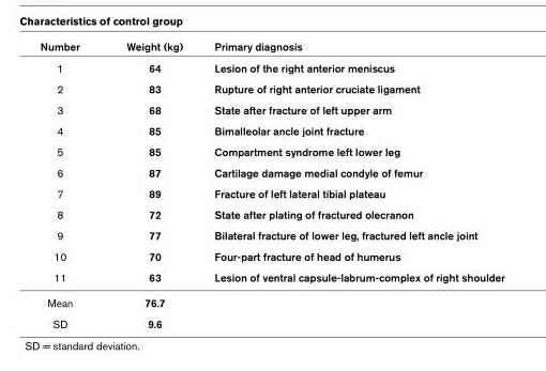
<table><thead><tr><td>Number</td><td>Weight (kg)</td><td>Primary diagnosis</td></tr></thead><tbody><tr><td>1</td><td>64</td><td>Lesion of the right anterior meniscus</td></tr><tr><td>2</td><td>83</td><td>Rupture of right anterior cruciate ligament</td></tr><tr><td>3</td><td>68</td><td>State after fracture of left upper arm</td></tr><tr><td>4</td><td>85</td><td>Bimalleolar ancle joint fracture</td></tr><tr><td>5</td><td>85</td><td>Compartment syndrome left lower leg</td></tr><tr><td>6</td><td>87</td><td>Cartilage damage medial condyle of femur</td></tr><tr><td>7</td><td>89</td><td>Fracture of left lateral tibial plateau</td></tr><tr><td>8</td><td>72</td><td>State after plating of fractured olecranon</td></tr><tr><td>9</td><td>77</td><td>Bilateral fracture of lower leg, fractured left ancle joint</td></tr><tr><td>10</td><td>70</td><td>Four-part fracture of head of humerus</td></tr><tr><td>11</td><td>63</td><td>Lesion of ventral capsule-labrum-complex of right shoulder</td></tr><tr><td>Mean</td><td>76.7</td><td></td></tr><tr><td>SD</td><td>9.6</td><td></td></tr></tbody></table>